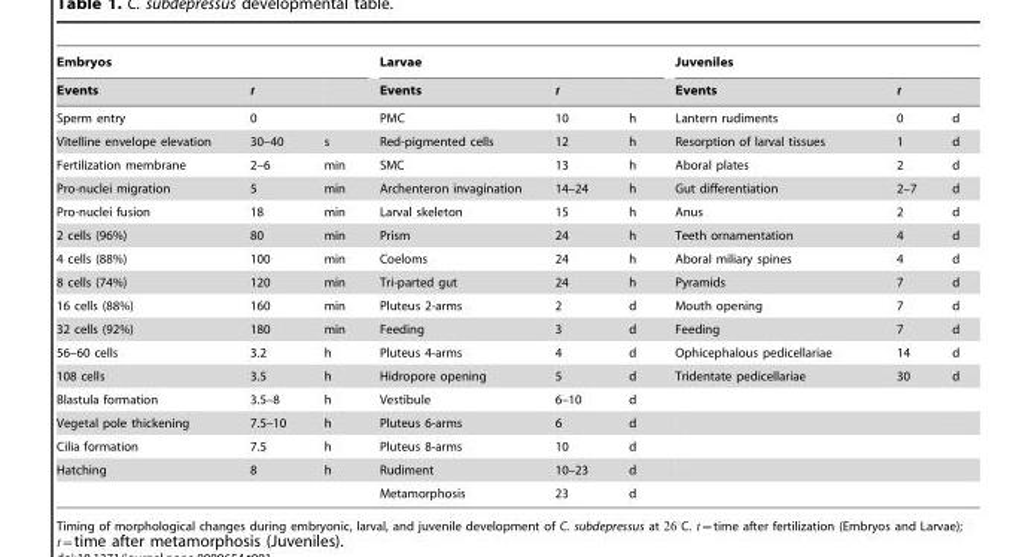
<table><thead><tr><td colspan="3">Embryos</td><td colspan="3">Larvae</td><td colspan="3">Juveniles</td></tr><tr><td>Events</td><td>t</td><td></td><td>Events</td><td>t</td><td></td><td>Events</td><td>t</td><td></td></tr></thead><tbody><tr><td>Sperm entry</td><td>0</td><td></td><td>PMC</td><td>10</td><td>h</td><td>Lantern rudiments</td><td>0</td><td>d</td></tr><tr><td>Vitelline envelope elevation</td><td>30–40</td><td>s</td><td>Red-pigmented cells</td><td>12</td><td>h</td><td>Resorption of larval tissues</td><td>1</td><td>d</td></tr><tr><td>Fertilization membrane</td><td>2–6</td><td>min</td><td>SMC</td><td>13</td><td>h</td><td>Aboral plates</td><td>2</td><td>d</td></tr><tr><td>Pro-nuclei migration</td><td>5</td><td>min</td><td>Archenteron invagination</td><td>14–24</td><td>h</td><td>Gut differentiation</td><td>2–7</td><td>d</td></tr><tr><td>Pro-nuclei fusion</td><td>18</td><td>min</td><td>Larval skeleton</td><td>15</td><td>h</td><td>Anus</td><td>2</td><td>d</td></tr><tr><td>2 cells (96%)</td><td>80</td><td>min</td><td>Prism</td><td>24</td><td>h</td><td>Teeth ornamentation</td><td>4</td><td>d</td></tr><tr><td>4 cells (88%)</td><td>100</td><td>min</td><td>Coeloms</td><td>24</td><td>h</td><td>Aboral miliary spines</td><td>4</td><td>d</td></tr><tr><td>8 cells (74%)</td><td>120</td><td>min</td><td>Tri-parted gut</td><td>24</td><td>h</td><td>Pyramids</td><td>7</td><td>d</td></tr><tr><td>16 cells (88%)</td><td>160</td><td>min</td><td>Pluteus 2-arms</td><td>2</td><td>d</td><td>Mouth opening</td><td>7</td><td>d</td></tr><tr><td>32 cells (92%)</td><td>180</td><td>min</td><td>Feeding</td><td>3</td><td>d</td><td>Feeding</td><td>7</td><td>d</td></tr><tr><td>56–60 cells</td><td>3.2</td><td>h</td><td>Pluteus 4-arms</td><td>4</td><td>d</td><td>Ophicephalous pedicellariae</td><td>14</td><td>d</td></tr><tr><td>108 cells</td><td>3.5</td><td>h</td><td>Hidropore opening</td><td>5</td><td>d</td><td>Tridentate pedicellariae</td><td>30</td><td>d</td></tr><tr><td>Blastula formation</td><td>3.5–8</td><td>h</td><td>Vestibule</td><td>6–10</td><td>d</td><td></td><td></td><td></td></tr><tr><td>Vegetal pole thickening</td><td>7.5–10</td><td>h</td><td>Pluteus 6-arms</td><td>6</td><td>d</td><td></td><td></td><td></td></tr><tr><td>Cilia formation</td><td>7.5</td><td>h</td><td>Pluteus 8-arms</td><td>10</td><td>d</td><td></td><td></td><td></td></tr><tr><td rowspan="2">Hatching</td><td>8</td><td>h</td><td>Rudiment</td><td>10–23</td><td>d</td><td></td><td></td><td></td></tr><tr><td></td><td></td><td>Metamorphosis</td><td>23</td><td>d</td><td></td><td></td><td></td></tr></tbody></table>